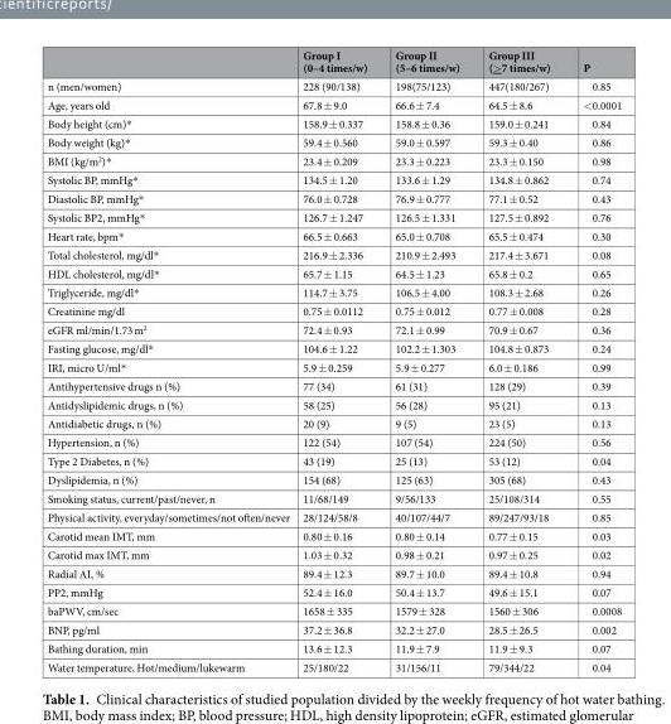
<table><thead><tr><td></td><td>Group I (0–4 times/w)</td><td>Group II (5–6 times/w)</td><td>Group III (&gt;7 times/w)</td><td>P</td></tr></thead><tbody><tr><td>n (men/women)</td><td>228 (90/138)</td><td>198(75/123)</td><td>447(180/267)</td><td>0.85</td></tr><tr><td>Age, years old</td><td>67.8 ± 9.0</td><td>66.6 ± 7.4</td><td>64.5 ± 8.6</td><td>&lt;0.0001</td></tr><tr><td>Body height (cm)*</td><td>158.9 ± 0.337</td><td>158.8 ± 0.36</td><td>159.0 ± 0.241</td><td>0.84</td></tr><tr><td>Body weight (kg)*</td><td>59.4 ± 0.560</td><td>59.0 ± 0.597</td><td>59.3 ± 0.40</td><td>0.86</td></tr><tr><td>BMI (kg/m<sup>2</sup>)*</td><td>23.4 ± 0.209</td><td>23.3 ± 0.223</td><td>23.3 ± 0.150</td><td>0.98</td></tr><tr><td>Systolic BP, mmHg*</td><td>134.5 ± 1.20</td><td>133.6 ± 1.29</td><td>134.8 ± 0.862</td><td>0.74</td></tr><tr><td>Diastolic BP, mmHg*</td><td>76.0 ± 0.728</td><td>76.9 ± 0.777</td><td>77.1 ± 0.52</td><td>0.43</td></tr><tr><td>Systolic BP2, mmHg*</td><td>126.7 ± 1.247</td><td>126.5 ± 1.331</td><td>127.5 ± 0.892</td><td>0.76</td></tr><tr><td>Heart rate, bpm*</td><td>66.5 ± 0.663</td><td>65.0 ± 0.708</td><td>65.5 ± 0.474</td><td>0.30</td></tr><tr><td>Total cholesterol, mg/dl*</td><td>216.9 ± 2.336</td><td>210.9 ± 2.493</td><td>217.4 ± 3.671</td><td>0.08</td></tr><tr><td>HDL cholesterol, mg/dl*</td><td>65.7 ± 1.15</td><td>64.5 ± 1.23</td><td>65.8 ± 0.2</td><td>0.65</td></tr><tr><td>Triglyceride, mg/dl*</td><td>114.7 ± 3.75</td><td>106.5 ± 4.00</td><td>108.3 ± 2.68</td><td>0.26</td></tr><tr><td>Creatinine mg/dl</td><td>0.75 ± 0.0112</td><td>0.75 ± 0.012</td><td>0.77 ± 0.008</td><td>0.28</td></tr><tr><td>eGFR ml/min/1.73 m<sup>2</sup></td><td>72.4 ± 0.93</td><td>72.1 ± 0.99</td><td>70.9 ± 0.67</td><td>0.36</td></tr><tr><td>Fasting glucose, mg/dl*</td><td>104.6 ± 1.22</td><td>102.2 ± 1.303</td><td>104.8 ± 0.873</td><td>0.24</td></tr><tr><td>IRI, micro U/ml*</td><td>5.9 ± 0.259</td><td>5.9 ± 0.277</td><td>6.0 ± 0.186</td><td>0.99</td></tr><tr><td>Antihypertensive drugs n (%)</td><td>77 (34)</td><td>61 (31)</td><td>128 (29)</td><td>0.39</td></tr><tr><td>Antidyslipidemic drugs, n (%)</td><td>58 (25)</td><td>56 (28)</td><td>95 (21)</td><td>0.13</td></tr><tr><td>Antidiabetic drugs, n (%)</td><td>20 (9)</td><td>9 (5)</td><td>23 (5)</td><td>0.13</td></tr><tr><td>Hypertension, n (%)</td><td>122 (54)</td><td>107 (54)</td><td>224 (50)</td><td>0.56</td></tr><tr><td>Type 2 Diabetes, n (%)</td><td>43 (19)</td><td>25 (13)</td><td>53 (12)</td><td>0.04</td></tr><tr><td>Dyslipidemia, n (%)</td><td>154 (68)</td><td>125 (63)</td><td>305 (68)</td><td>0.43</td></tr><tr><td>Smoking status, current/past/never, n</td><td>11/68/149</td><td>9/56/133</td><td>25/108/314</td><td>0.55</td></tr><tr><td>Physical activity, everyday/sometimes/not often/never</td><td>28/124/58/8</td><td>40/107/44/7</td><td>89/247/93/18</td><td>0.85</td></tr><tr><td>Carotid mean IMT, mm</td><td>0.80 ± 0.16</td><td>0.80 ± 0.14</td><td>0.77 ± 0.15</td><td>0.03</td></tr><tr><td>Carotid max IMT, mm</td><td>1.03 ± 0.32</td><td>0.98 ± 0.21</td><td>0.97 ± 0.25</td><td>0.02</td></tr><tr><td>Radial AI, %</td><td>89.4 ± 12.3</td><td>89.7 ± 10.0</td><td>89.4 ± 10.8</td><td>0.94</td></tr><tr><td>PP2, mmHg</td><td>52.4 ± 16.0</td><td>50.4 ± 13.7</td><td>49.6 ± 15.1</td><td>0.07</td></tr><tr><td>baPWV, cm/sec</td><td>1658 ± 335</td><td>1579 ± 328</td><td>1560 ± 306</td><td>0.0008</td></tr><tr><td>BNP, pg/ml</td><td>37.2 ± 36.8</td><td>32.2 ± 27.0</td><td>28.5 ± 26.5</td><td>0.002</td></tr><tr><td>Bathing duration, min</td><td>13.6 ± 12.3</td><td>11.9 ± 7.9</td><td>11.9 ± 9.3</td><td>0.07</td></tr><tr><td>Water temperature, Hot/medium/lukewarm</td><td>25/180/22</td><td>31/156/11</td><td>79/344/22</td><td>0.04</td></tr></tbody></table>